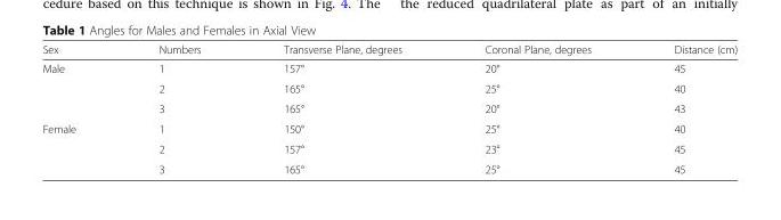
<table><thead><tr><td>Sex</td><td>Numbers</td><td>Transverse Plane, degrees</td><td>Coronal Plane, degrees</td><td>Distance (cm)</td></tr></thead><tbody><tr><td rowspan="3">Male</td><td>1</td><td>157°</td><td>20°</td><td>45</td></tr><tr><td>2</td><td>165°</td><td>25°</td><td>40</td></tr><tr><td>3</td><td>165°</td><td>20°</td><td>43</td></tr><tr><td rowspan="3">Female</td><td>1</td><td>150°</td><td>25°</td><td>40</td></tr><tr><td>2</td><td>157°</td><td>23°</td><td>45</td></tr><tr><td>3</td><td>165°</td><td>25°</td><td>45</td></tr></tbody></table>